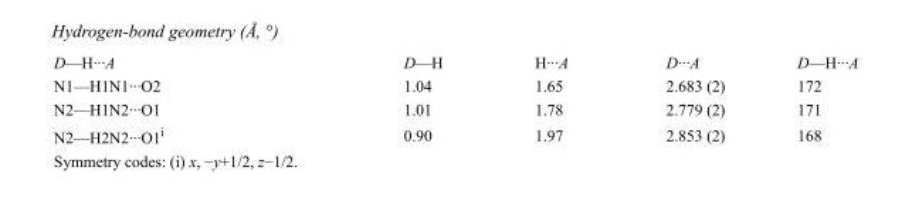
<table><tbody><tr><td>D—H···A</td><td>D—H</td><td>H···A</td><td>D···A</td><td>D—H···A</td></tr><tr><td>N1—H1N1···O2</td><td>1.04</td><td>1.65</td><td>2.683 (2)</td><td>172</td></tr><tr><td>N2—H1N2···O1</td><td>1.01</td><td>1.78</td><td>2.779 (2)</td><td>171</td></tr><tr><td>N2—H2N2···O1<sup>i</sup></td><td>0.90</td><td>1.97</td><td>2.853 (2)</td><td>168</td></tr></tbody></table>